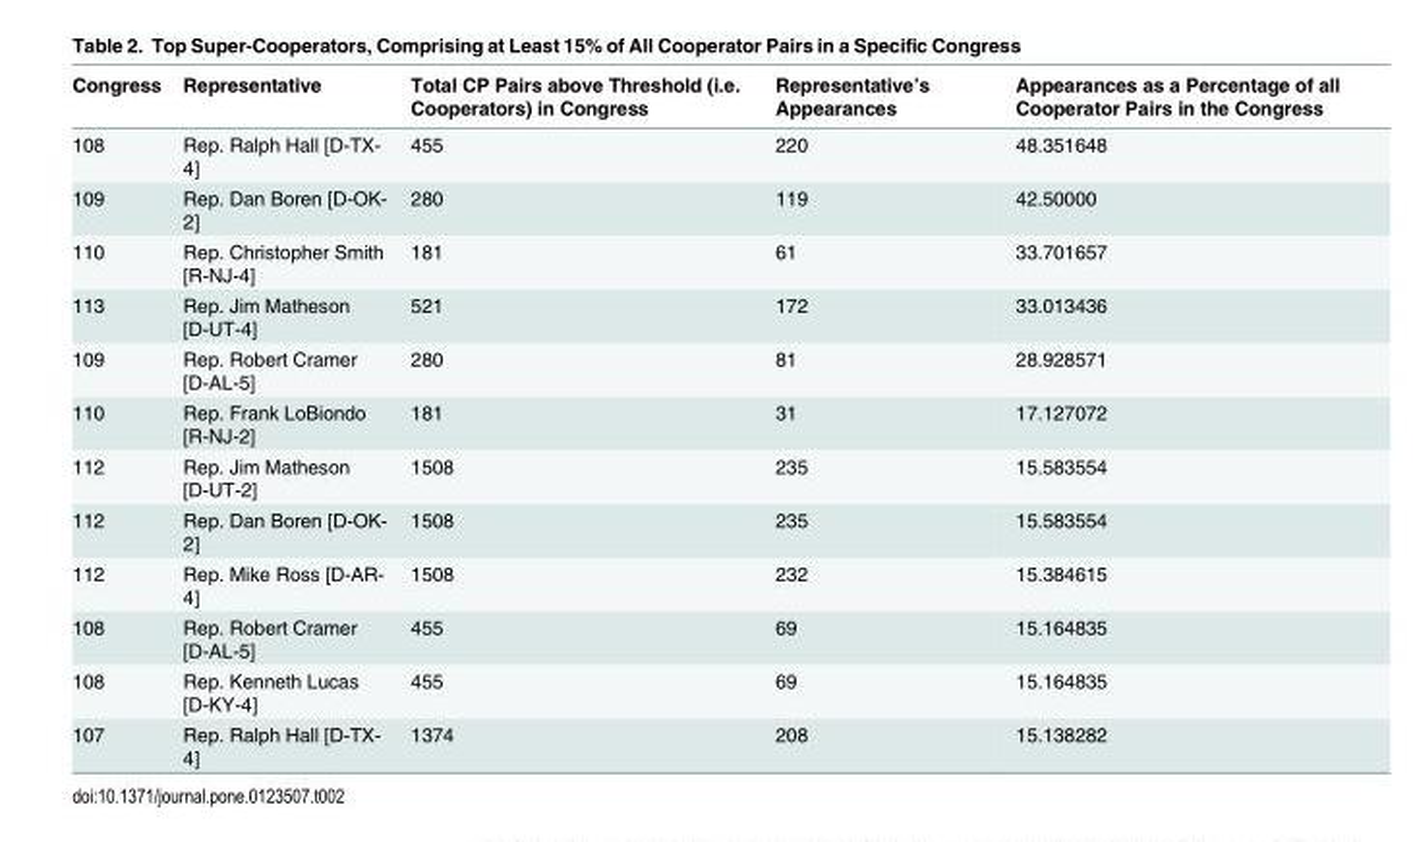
<table><thead><tr><td>Congress</td><td>Representative</td><td>Total CP Pairs above Threshold (i.e. Cooperators) in Congress</td><td>Representative’s Appearances</td><td>Appearances as a Percentage of all Cooperator Pairs in the Congress</td></tr></thead><tbody><tr><td>108</td><td>Rep. Ralph Hall [D-TX- 4]</td><td>455</td><td>220</td><td>48.351648</td></tr><tr><td>109</td><td>Rep. Dan Boren [D-OK- 2]</td><td>280</td><td>119</td><td>42.50000</td></tr><tr><td>110</td><td>Rep. Christopher Smith [R-NJ-4]</td><td>181</td><td>61</td><td>33.701657</td></tr><tr><td>113</td><td>Rep. Jim Matheson [D-UT-4]</td><td>521</td><td>172</td><td>33.013436</td></tr><tr><td>109</td><td>Rep. Robert Cramer [D-AL-5]</td><td>280</td><td>81</td><td>28.928571</td></tr><tr><td>110</td><td>Rep. Frank LoBiondo [R-NJ-2]</td><td>181</td><td>31</td><td>17.127072</td></tr><tr><td>112</td><td>Rep. Jim Matheson [D-UT-2]</td><td>1508</td><td>235</td><td>15.583554</td></tr><tr><td>112</td><td>Rep. Dan Boren [D-OK- 2]</td><td>1508</td><td>235</td><td>15.583554</td></tr><tr><td>112</td><td>Rep. Mike Ross [D-AR- 4]</td><td>1508</td><td>232</td><td>15.384615</td></tr><tr><td>108</td><td>Rep. Robert Cramer [D-AL-5]</td><td>455</td><td>69</td><td>15.164835</td></tr><tr><td>108</td><td>Rep. Kenneth Lucas [D-KY-4]</td><td>455</td><td>69</td><td>15.164835</td></tr><tr><td>107</td><td>Rep. Ralph Hall [D-TX- 4]</td><td>1374</td><td>208</td><td>15.138282</td></tr></tbody></table>